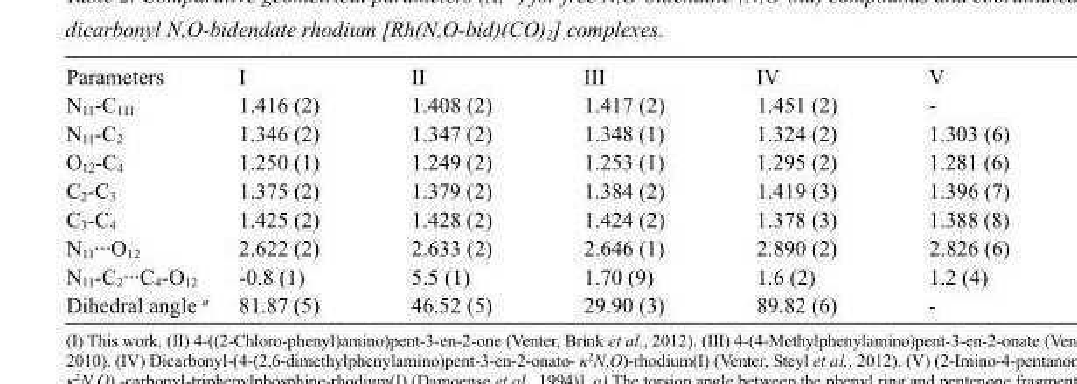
<table><tbody><tr><td>Parameters</td><td>I</td><td>II</td><td>III</td><td>IV</td><td>V</td></tr><tr><td>N<sub>11</sub>-C<sub>111</sub></td><td>1.416 (2)</td><td>1.408 (2)</td><td>1.417 (2)</td><td>1.451 (2)</td><td>-</td></tr><tr><td>N<sub>11</sub>-C<sub>2</sub></td><td>1.346 (2)</td><td>1.347 (2)</td><td>1.348 (1)</td><td>1.324 (2)</td><td>1.303 (6)</td></tr><tr><td>O<sub>12</sub>-C<sub>4</sub></td><td>1.250 (1)</td><td>1.249 (2)</td><td>1.253 (1)</td><td>1.295 (2)</td><td>1.281 (6)</td></tr><tr><td>C<sub>2</sub>-C<sub>3</sub></td><td>1.375 (2)</td><td>1.379 (2)</td><td>1.384 (2)</td><td>1.419 (3)</td><td>1.396 (7)</td></tr><tr><td>C<sub>3</sub>-C<sub>4</sub></td><td>1.425 (2)</td><td>1.428 (2)</td><td>1.424 (2)</td><td>1.378 (3)</td><td>1.388 (8)</td></tr><tr><td>N<sub>11</sub>···O<sub>12</sub></td><td>2.622 (2)</td><td>2.633 (2)</td><td>2.646 (1)</td><td>2.890 (2)</td><td>2.826 (6)</td></tr><tr><td>N<sub>11</sub>-C<sub>2</sub>···C<sub>4</sub>-O<sub>12</sub></td><td>-0.8 (1)</td><td>5.5 (1)</td><td>1.70 (9)</td><td>1.6 (2)</td><td>1.2 (4)</td></tr><tr><td>Dihedral angle <sup>a</sup></td><td>81.87 (5)</td><td>46.52 (5)</td><td>29.90 (3)</td><td>89.82 (6)</td><td>-</td></tr></tbody></table>